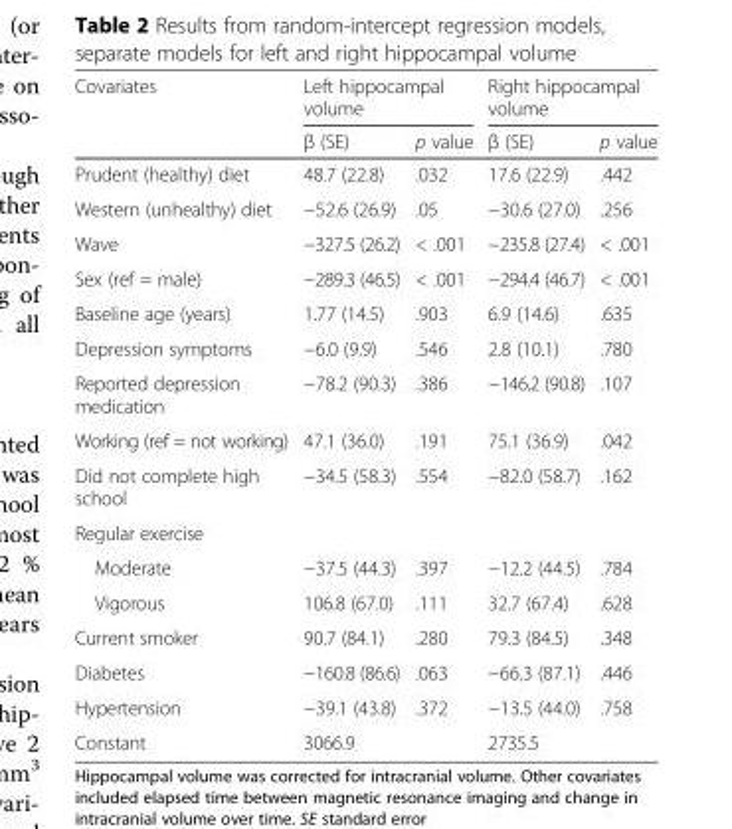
<table><thead><tr><td rowspan="2">Covariates</td><td colspan="2">Left hippocampal volume</td><td colspan="2">Right hippocampal volume</td></tr><tr><td>β (SE)</td><td>p value</td><td>β (SE)</td><td>p value</td></tr></thead><tbody><tr><td>Prudent (healthy) diet</td><td>48.7 (22.8)</td><td>.032</td><td>17.6 (22.9)</td><td>.442</td></tr><tr><td>Western (unhealthy) diet</td><td>−52.6 (26.9)</td><td>.05</td><td>−30.6 (27.0)</td><td>.256</td></tr><tr><td>Wave</td><td>−327.5 (26.2)</td><td>&lt; .001</td><td>−235.8 (27.4)</td><td>&lt; .001</td></tr><tr><td>Sex (ref = male)</td><td>−289.3 (46.5)</td><td>&lt; .001</td><td>−294.4 (46.7)</td><td>&lt; .001</td></tr><tr><td>Baseline age (years)</td><td>1.77 (14.5)</td><td>.903</td><td>6.9 (14.6)</td><td>.635</td></tr><tr><td>Depression symptoms</td><td>−6.0 (9.9)</td><td>.546</td><td>2.8 (10.1)</td><td>.780</td></tr><tr><td>Reported depression medication</td><td>−78.2 (90.3)</td><td>.386</td><td>−146.2 (90.8)</td><td>.107</td></tr><tr><td>Working (ref = not working)</td><td>47.1 (36.0)</td><td>.191</td><td>75.1 (36.9)</td><td>.042</td></tr><tr><td>Did not complete high school</td><td>−34.5 (58.3)</td><td>.554</td><td>−82.0 (58.7)</td><td>.162</td></tr><tr><td colspan="5">Regular exercise</td></tr><tr><td>Moderate</td><td>−37.5 (44.3)</td><td>.397</td><td>−12.2 (44.5)</td><td>.784</td></tr><tr><td>Vigorous</td><td>106.8 (67.0)</td><td>.111</td><td>32.7 (67.4)</td><td>.628</td></tr><tr><td>Current smoker</td><td>90.7 (84.1)</td><td>.280</td><td>79.3 (84.5)</td><td>.348</td></tr><tr><td>Diabetes</td><td>−160.8 (86.6)</td><td>.063</td><td>−66.3 (87.1)</td><td>.446</td></tr><tr><td>Hypertension</td><td>−39.1 (43.8)</td><td>.372</td><td>−13.5 (44.0)</td><td>.758</td></tr><tr><td>Constant</td><td>3066.9</td><td></td><td>2735.5</td><td></td></tr></tbody></table>